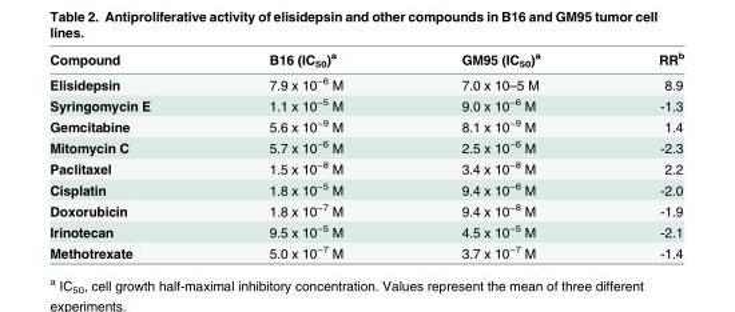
<table><thead><tr><td>Compound</td><td>B16 (IC<sub>50</sub>)<sup>a</sup></td><td>GM95 (IC<sub>50</sub>)<sup>a</sup></td><td>RR<sup>b</sup></td></tr></thead><tbody><tr><td>Elisidepsin</td><td>7.9 x 10<sup>−6</sup> M</td><td>7.0 x 10–5 M</td><td>8.9</td></tr><tr><td>Syringomycin E</td><td>1.1 x 10<sup>−5</sup> M</td><td>9.0 x 10<sup>−6</sup> M</td><td>-1.3</td></tr><tr><td>Gemcitabine</td><td>5.6 x 10<sup>−9</sup> M</td><td>8.1 x 10<sup>−9</sup> M</td><td>1.4</td></tr><tr><td>Mitomycin C</td><td>5.7 x 10<sup>−6</sup> M</td><td>2.5 x 10<sup>−6</sup> M</td><td>-2.3</td></tr><tr><td>Paclitaxel</td><td>1.5 x 10<sup>−8</sup> M</td><td>3.4 x 10<sup>−8</sup> M</td><td>2.2</td></tr><tr><td>Cisplatin</td><td>1.8 x 10<sup>−5</sup> M</td><td>9.4 x 10<sup>−6</sup> M</td><td>-2.0</td></tr><tr><td>Doxorubicin</td><td>1.8 x 10<sup>−7</sup> M</td><td>9.4 x 10<sup>−8</sup> M</td><td>-1.9</td></tr><tr><td>Irinotecan</td><td>9.5 x 10<sup>−5</sup> M</td><td>4.5 x 10<sup>−5</sup> M</td><td>-2.1</td></tr><tr><td>Methotrexate</td><td>5.0 x 10<sup>−7</sup> M</td><td>3.7 x 10<sup>−7</sup> M</td><td>-1.4</td></tr></tbody></table>